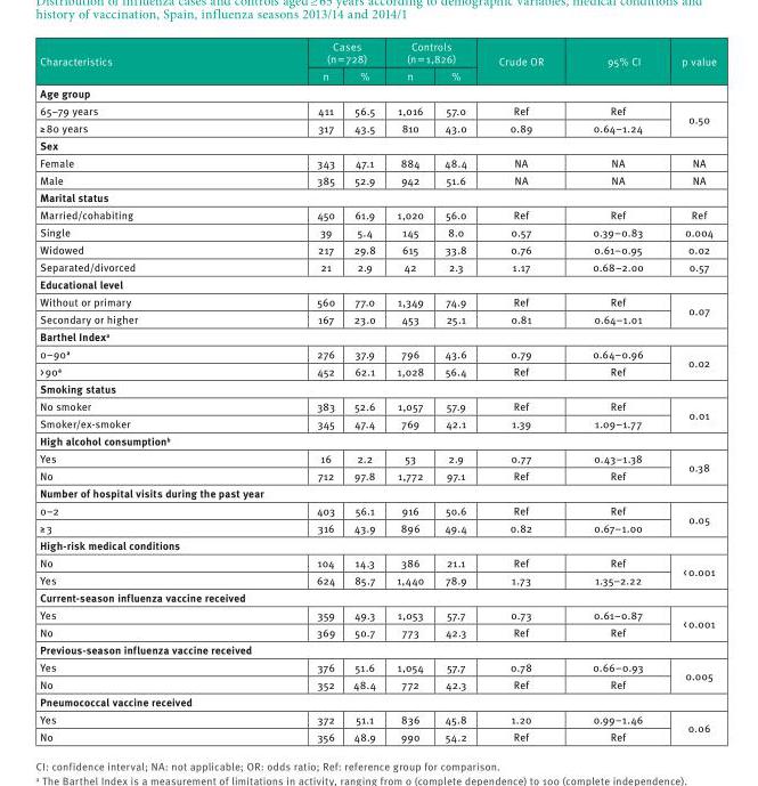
<table><thead><tr><td rowspan="2">Characteristics</td><td colspan="2">Cases (n = 728)</td><td colspan="2">Controls (n = 1,826)</td><td rowspan="2">Crude OR</td><td rowspan="2">95% CI</td><td rowspan="2">p value</td></tr><tr><td>n</td><td>%</td><td>n</td><td>%</td></tr></thead><tbody><tr><td colspan="8">Age group</td></tr><tr><td>65–79 years</td><td>411</td><td>56.5</td><td>1,016</td><td>57.0</td><td>Ref</td><td>Ref</td><td rowspan="2">0.50</td></tr><tr><td>≥ 80 years</td><td>317</td><td>43.5</td><td>810</td><td>43.0</td><td>0.89</td><td>0.64–1.24</td></tr><tr><td colspan="8">Sex</td></tr><tr><td>Female</td><td>343</td><td>47.1</td><td>884</td><td>48.4</td><td>NA</td><td>NA</td><td>NA</td></tr><tr><td>Male</td><td>385</td><td>52.9</td><td>942</td><td>51.6</td><td>NA</td><td>NA</td><td>NA</td></tr><tr><td colspan="8">Marital status</td></tr><tr><td>Married/cohabiting</td><td>450</td><td>61.9</td><td>1,020</td><td>56.0</td><td>Ref</td><td>Ref</td><td>Ref</td></tr><tr><td>Single</td><td>39</td><td>5.4</td><td>145</td><td>8.0</td><td>0.57</td><td>0.39–0.83</td><td>0.004</td></tr><tr><td>Widowed</td><td>217</td><td>29.8</td><td>615</td><td>33.8</td><td>0.76</td><td>0.61–0.95</td><td>0.02</td></tr><tr><td>Separated/divorced</td><td>21</td><td>2.9</td><td>42</td><td>2.3</td><td>1.17</td><td>0.68–2.00</td><td>0.57</td></tr><tr><td colspan="8">Educational level</td></tr><tr><td>Without or primary</td><td>560</td><td>77.0</td><td>1,349</td><td>74.9</td><td>Ref</td><td>Ref</td><td rowspan="2">0.07</td></tr><tr><td>Secondary or higher</td><td>167</td><td>23.0</td><td>453</td><td>25.1</td><td>0.81</td><td>0.64–1.01</td></tr><tr><td colspan="8">Barthel Index<sup>a</sup></td></tr><tr><td>0–90<sup>a</sup></td><td>276</td><td>37.9</td><td>796</td><td>43.6</td><td>0.79</td><td>0.64–0.96</td><td rowspan="2">0.02</td></tr><tr><td>&gt; 90<sup>a</sup></td><td>452</td><td>62.1</td><td>1,028</td><td>56.4</td><td>Ref</td><td>Ref</td></tr><tr><td colspan="8">Smoking status</td></tr><tr><td>No smoker</td><td>383</td><td>52.6</td><td>1,057</td><td>57.9</td><td>Ref</td><td>Ref</td><td rowspan="2">0.01</td></tr><tr><td>Smoker/ex-smoker</td><td>345</td><td>47.4</td><td>769</td><td>42.1</td><td>1.39</td><td>1.09–1.77</td></tr><tr><td colspan="8">High alcohol consumption<sup>b</sup></td></tr><tr><td>Yes</td><td>16</td><td>2.2</td><td>53</td><td>2.9</td><td>0.77</td><td>0.43–1.38</td><td rowspan="2">0.38</td></tr><tr><td>No</td><td>712</td><td>97.8</td><td>1,772</td><td>97.1</td><td>Ref</td><td>Ref</td></tr><tr><td colspan="8">Number of hospital visits during the past year</td></tr><tr><td>0–2</td><td>403</td><td>56.1</td><td>916</td><td>50.6</td><td>Ref</td><td>Ref</td><td rowspan="2">0.05</td></tr><tr><td>≥ 3</td><td>316</td><td>43.9</td><td>896</td><td>49.4</td><td>0.82</td><td>0.67–1.00</td></tr><tr><td colspan="8">High-risk medical conditions</td></tr><tr><td>No</td><td>104</td><td>14.3</td><td>386</td><td>21.1</td><td>Ref</td><td>Ref</td><td rowspan="2">&lt; 0.001</td></tr><tr><td>Yes</td><td>624</td><td>85.7</td><td>1,440</td><td>78.9</td><td>1.73</td><td>1.35–2.22</td></tr><tr><td colspan="8">Current-season influenza vaccine received</td></tr><tr><td>Yes</td><td>359</td><td>49.3</td><td>1,053</td><td>57.7</td><td>0.73</td><td>0.61–0.87</td><td rowspan="2">&lt; 0.001</td></tr><tr><td>No</td><td>369</td><td>50.7</td><td>773</td><td>42.3</td><td>Ref</td><td>Ref</td></tr><tr><td colspan="8">Previous-season influenza vaccine received</td></tr><tr><td>Yes</td><td>376</td><td>51.6</td><td>1,054</td><td>57.7</td><td>0.78</td><td>0.66–0.93</td><td rowspan="2">0.005</td></tr><tr><td>No</td><td>352</td><td>48.4</td><td>772</td><td>42.3</td><td>Ref</td><td>Ref</td></tr><tr><td colspan="8">Pneumococcal vaccine received</td></tr><tr><td>Yes</td><td>372</td><td>51.1</td><td>836</td><td>45.8</td><td>1.20</td><td>0.99–1.46</td><td rowspan="2">0.06</td></tr><tr><td>No</td><td>356</td><td>48.9</td><td>990</td><td>54.2</td><td>Ref</td><td>Ref</td></tr></tbody></table>